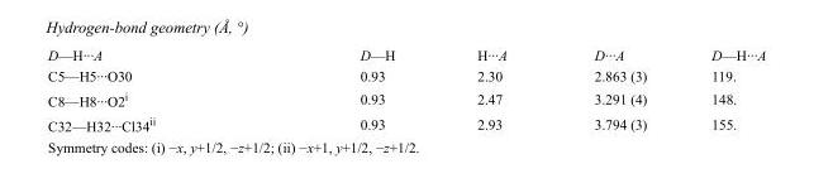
<table><tbody><tr><td>D—H···A</td><td>D—H</td><td>H···A</td><td>D···A</td><td>D—H···A</td></tr><tr><td>C5—H5···O30</td><td>0.93</td><td>2.30</td><td>2.863 (3)</td><td>119.</td></tr><tr><td>C8—H8···O2<sup>i</sup></td><td>0.93</td><td>2.47</td><td>3.291 (4)</td><td>148.</td></tr><tr><td>C32—H32···Cl34<sup>ii</sup></td><td>0.93</td><td>2.93</td><td>3.794 (3)</td><td>155.</td></tr></tbody></table>